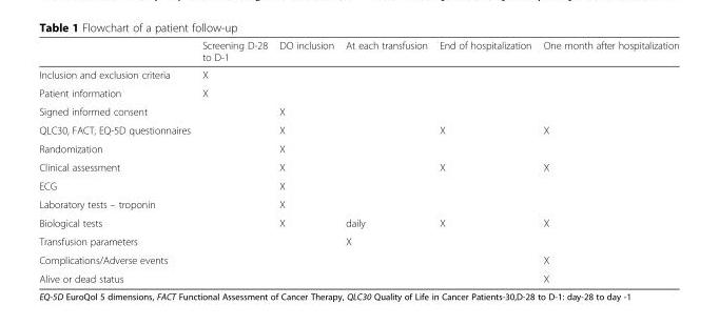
<table><thead><tr><td></td><td>Screening D-28 to D-1</td><td>DO inclusion</td><td>At each transfusion</td><td>End of hospitalization</td><td>One month after hospitalization</td></tr></thead><tbody><tr><td>Inclusion and exclusion criteria</td><td>X</td><td></td><td></td><td></td><td></td></tr><tr><td>Patient information</td><td>X</td><td></td><td></td><td></td><td></td></tr><tr><td>Signed informed consent</td><td></td><td>X</td><td></td><td></td><td></td></tr><tr><td>QLC30, FACT, EQ-5D questionnaires</td><td></td><td>X</td><td></td><td>X</td><td>X</td></tr><tr><td>Randomization</td><td></td><td>X</td><td></td><td></td><td></td></tr><tr><td>Clinical assessment</td><td></td><td>X</td><td></td><td>X</td><td>X</td></tr><tr><td>ECG</td><td></td><td>X</td><td></td><td></td><td></td></tr><tr><td>Laboratory tests – troponin</td><td></td><td>X</td><td></td><td></td><td></td></tr><tr><td>Biological tests</td><td></td><td>X</td><td>daily</td><td>X</td><td>X</td></tr><tr><td>Transfusion parameters</td><td></td><td></td><td>X</td><td></td><td></td></tr><tr><td>Complications/Adverse events</td><td></td><td></td><td></td><td></td><td>X</td></tr><tr><td>Alive or dead status</td><td></td><td></td><td></td><td></td><td>X</td></tr></tbody></table>